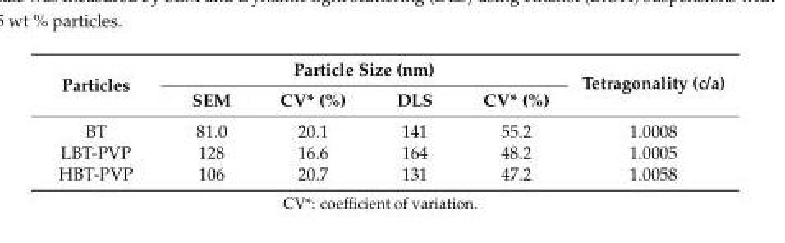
<table><thead><tr><td rowspan="2">Particles</td><td colspan="4">Particle Size (nm)</td><td rowspan="2">Tetragonality (c/a)</td></tr><tr><td>SEM</td><td>CV* (%)</td><td>DLS</td><td>CV* (%)</td></tr></thead><tbody><tr><td>BT</td><td>81.0</td><td>20.1</td><td>141</td><td>55.2</td><td>1.0008</td></tr><tr><td>LBT-PVP</td><td>128</td><td>16.6</td><td>164</td><td>48.2</td><td>1.0005</td></tr><tr><td>HBT-PVP</td><td>106</td><td>20.7</td><td>131</td><td>47.2</td><td>1.0058</td></tr></tbody></table>